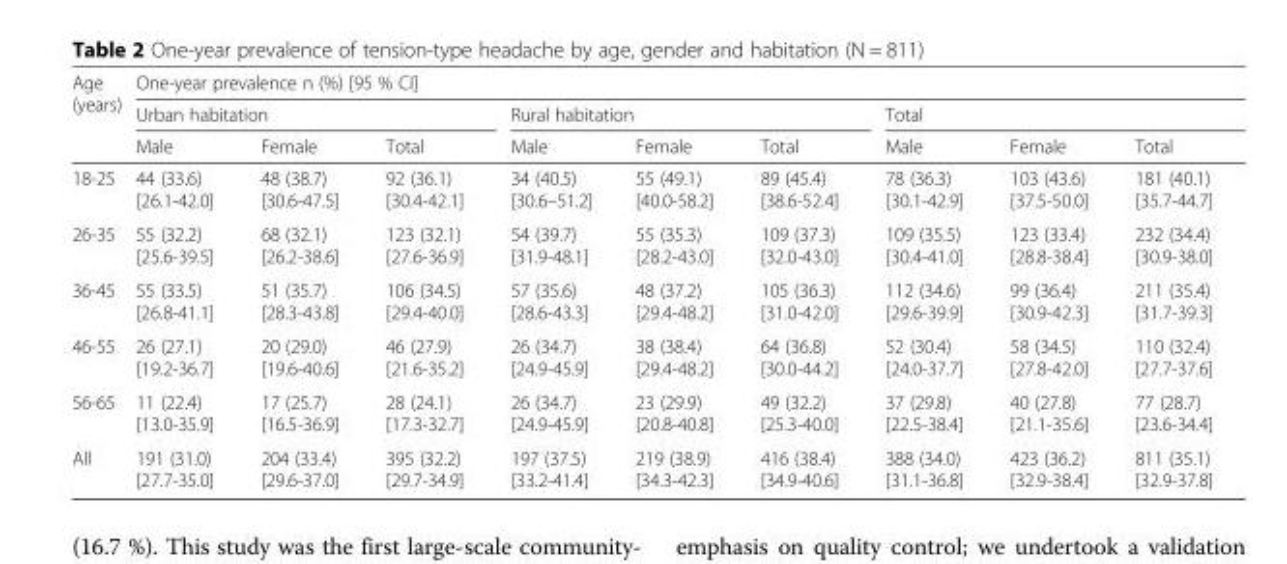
<table><thead><tr><td rowspan="3">Age (years)</td><td colspan="9">One-year prevalence n (%) [95 % CI]</td></tr><tr><td colspan="3">Urban habitation</td><td colspan="3">Rural habitation</td><td colspan="3">Total</td></tr><tr><td>Male</td><td>Female</td><td>Total</td><td>Male</td><td>Female</td><td>Total</td><td>Male</td><td>Female</td><td>Total</td></tr></thead><tbody><tr><td>18-25</td><td>44 (33.6) [26.1-42.0]</td><td>48 (38.7) [30.6-47.5]</td><td>92 (36.1) [30.4-42.1]</td><td>34 (40.5) [30.6–51.2]</td><td>55 (49.1) [40.0-58.2]</td><td>89 (45.4) [38.6-52.4]</td><td>78 (36.3) [30.1-42.9]</td><td>103 (43.6) [37.5-50.0]</td><td>181 (40.1) [35.7-44.7]</td></tr><tr><td>26-35</td><td>55 (32.2) [25.6-39.5]</td><td>68 (32.1) [26.2-38.6]</td><td>123 (32.1) [27.6-36.9]</td><td>54 (39.7) [31.9-48.1]</td><td>55 (35.3) [28.2-43.0]</td><td>109 (37.3) [32.0-43.0]</td><td>109 (35.5) [30.4-41.0]</td><td>123 (33.4) [28.8-38.4]</td><td>232 (34.4) [30.9-38.0]</td></tr><tr><td>36-45</td><td>55 (33.5) [26.8-41.1]</td><td>51 (35.7) [28.3-43.8]</td><td>106 (34.5) [29.4-40.0]</td><td>57 (35.6) [28.6-43.3]</td><td>48 (37.2) [29.4-48.2]</td><td>105 (36.3) [31.0-42.0]</td><td>112 (34.6) [29.6-39.9]</td><td>99 (36.4) [30.9-42.3]</td><td>211 (35.4) [31.7-39.3]</td></tr><tr><td>46-55</td><td>26 (27.1) [19.2-36.7]</td><td>20 (29.0) [19.6-40.6]</td><td>46 (27.9) [21.6-35.2]</td><td>26 (34.7) [24.9-45.9]</td><td>38 (38.4) [29.4-48.2]</td><td>64 (36.8) [30.0-44.2]</td><td>52 (30.4) [24.0-37.7]</td><td>58 (34.5) [27.8-42.0]</td><td>110 (32.4) [27.7-37.6]</td></tr><tr><td>56-65</td><td>11 (22.4) [13.0-35.9]</td><td>17 (25.7) [16.5-36.9]</td><td>28 (24.1) [17.3-32.7]</td><td>26 (34.7) [24.9-45.9]</td><td>23 (29.9) [20.8-40.8]</td><td>49 (32.2) [25.3-40.0]</td><td>37 (29.8) [22.5-38.4]</td><td>40 (27.8) [21.1-35.6]</td><td>77 (28.7) [23.6-34.4]</td></tr><tr><td>All</td><td>191 (31.0) [27.7-35.0]</td><td>204 (33.4) [29.6-37.0]</td><td>395 (32.2) [29.7-34.9]</td><td>197 (37.5) [33.2-41.4]</td><td>219 (38.9) [34.3-42.3]</td><td>416 (38.4) [34.9-40.6]</td><td>388 (34.0) [31.1-36.8]</td><td>423 (36.2) [32.9-38.4]</td><td>811 (35.1) [32.9-37.8]</td></tr></tbody></table>